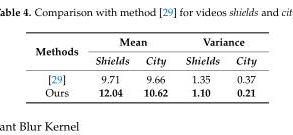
<table><thead><tr><td rowspan="2">Methods</td><td colspan="2">Mean</td><td colspan="2">Variance</td></tr><tr><td>Shields</td><td>City</td><td>Shields</td><td>City</td></tr></thead><tbody><tr><td>[29]</td><td>9.71</td><td>9.66</td><td>1.35</td><td>0.37</td></tr><tr><td>Ours</td><td>12.04</td><td>10.62</td><td>1.10</td><td>0.21</td></tr></tbody></table>